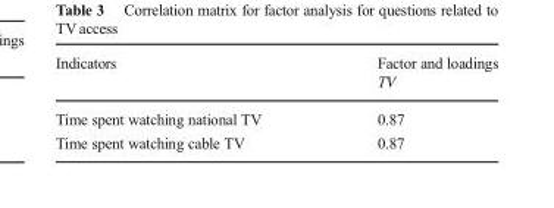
<table><thead><tr><td rowspan="2">Indicators</td><td rowspan="2">Factor and loadings TV</td></tr><tr></tr></thead><tbody><tr><td>Time spent watching national TV</td><td>0.87</td></tr><tr><td>Time spent watching cable TV</td><td>0.87</td></tr></tbody></table>